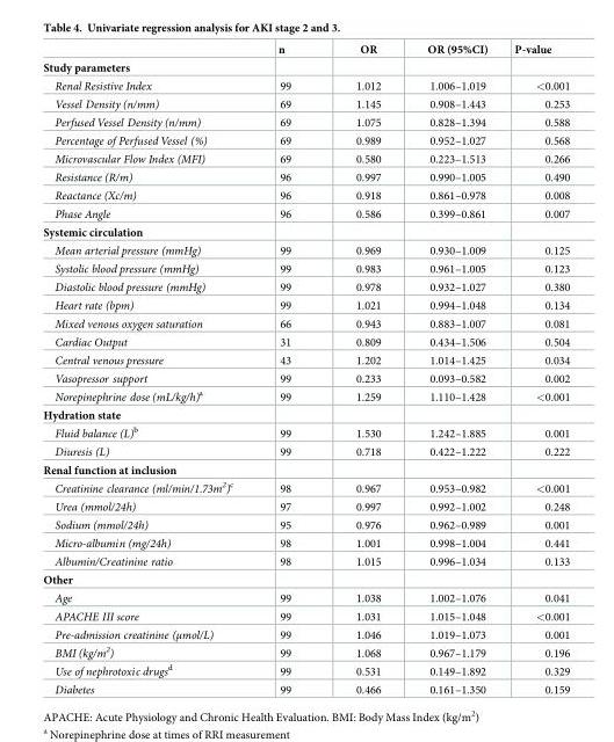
<table><thead><tr><td></td><td>n</td><td>OR</td><td>OR (95%CI)</td><td>P-value</td></tr></thead><tbody><tr><td colspan="5">Study parameters</td></tr><tr><td>Renal Resistive Index</td><td>99</td><td>1.012</td><td>1.006–1.019</td><td>&lt;0.001</td></tr><tr><td>Vessel Density (n/mm)</td><td>69</td><td>1.145</td><td>0.908–1.443</td><td>0.253</td></tr><tr><td>Perfused Vessel Density (n/mm)</td><td>69</td><td>1.075</td><td>0.828–1.394</td><td>0.588</td></tr><tr><td>Percentage of Perfused Vessel (%)</td><td>69</td><td>0.989</td><td>0.952–1.027</td><td>0.568</td></tr><tr><td>Microvascular Flow Index (MFI)</td><td>69</td><td>0.580</td><td>0.223–1.513</td><td>0.266</td></tr><tr><td>Resistance (R/m)</td><td>96</td><td>0.997</td><td>0.990–1.005</td><td>0.490</td></tr><tr><td>Reactance (Xc/m)</td><td>96</td><td>0.918</td><td>0.861–0.978</td><td>0.008</td></tr><tr><td>Phase Angle</td><td>96</td><td>0.586</td><td>0.399–0.861</td><td>0.007</td></tr><tr><td colspan="5">Systemic circulation</td></tr><tr><td>Mean arterial pressure (mmHg)</td><td>99</td><td>0.969</td><td>0.930–1.009</td><td>0.125</td></tr><tr><td>Systolic blood pressure (mmHg)</td><td>99</td><td>0.983</td><td>0.961–1.005</td><td>0.123</td></tr><tr><td>Diastolic blood pressure (mmHg)</td><td>99</td><td>0.978</td><td>0.932–1.027</td><td>0.380</td></tr><tr><td>Heart rate (bpm)</td><td>99</td><td>1.021</td><td>0.994–1.048</td><td>0.134</td></tr><tr><td>Mixed venous oxygen saturation</td><td>66</td><td>0.943</td><td>0.883–1.007</td><td>0.081</td></tr><tr><td>Cardiac Output</td><td>31</td><td>0.809</td><td>0.434–1.506</td><td>0.504</td></tr><tr><td>Central venous pressure</td><td>43</td><td>1.202</td><td>1.014–1.425</td><td>0.034</td></tr><tr><td>Vasopressor support</td><td>99</td><td>0.233</td><td>0.093–0.582</td><td>0.002</td></tr><tr><td>Norepinephrine dose (mL/kg/h)<sup>a</sup></td><td>99</td><td>1.259</td><td>1.110–1.428</td><td>&lt;0.001</td></tr><tr><td colspan="5">Hydration state</td></tr><tr><td>Fluid balance (L)<sup>b</sup></td><td>99</td><td>1.530</td><td>1.242–1.885</td><td>0.001</td></tr><tr><td>Diuresis (L)</td><td>99</td><td>0.718</td><td>0.422–1.222</td><td>0.222</td></tr><tr><td colspan="5">Renal function at inclusion</td></tr><tr><td>Creatinine clearance (ml/min/1.73m<sup>2</sup>)<sup>c</sup></td><td>98</td><td>0.967</td><td>0.953–0.982</td><td>&lt;0.001</td></tr><tr><td>Urea (mmol/24h)</td><td>97</td><td>0.997</td><td>0.992–1.002</td><td>0.248</td></tr><tr><td>Sodium (mmol/24h)</td><td>95</td><td>0.976</td><td>0.962–0.989</td><td>0.001</td></tr><tr><td>Micro-albumin (mg/24h)</td><td>98</td><td>1.001</td><td>0.998–1.004</td><td>0.441</td></tr><tr><td>Albumin/Creatinine ratio</td><td>98</td><td>1.015</td><td>0.996–1.034</td><td>0.133</td></tr><tr><td colspan="5">Other</td></tr><tr><td>Age</td><td>99</td><td>1.038</td><td>1.002–1.076</td><td>0.041</td></tr><tr><td>APACHE III score</td><td>99</td><td>1.031</td><td>1.015–1.048</td><td>&lt;0.001</td></tr><tr><td>Pre-admission creatinine (μmol/L)</td><td>99</td><td>1.046</td><td>1.019–1.073</td><td>0.001</td></tr><tr><td>BMI (kg/m<sup>2</sup>)</td><td>99</td><td>1.068</td><td>0.967–1.179</td><td>0.196</td></tr><tr><td>Use of nephrotoxic drugs<sup>d</sup></td><td>99</td><td>0.531</td><td>0.149–1.892</td><td>0.329</td></tr><tr><td>Diabetes</td><td>99</td><td>0.466</td><td>0.161–1.350</td><td>0.159</td></tr></tbody></table>